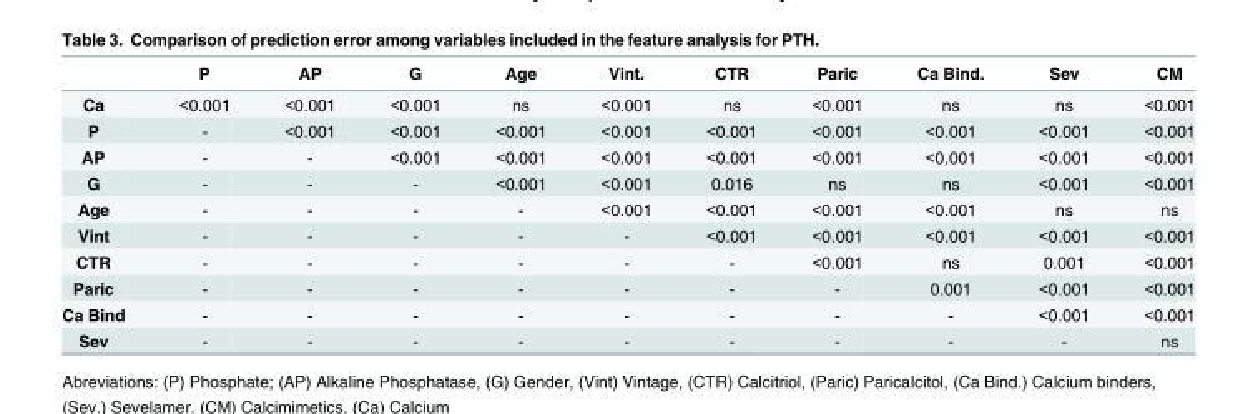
<table><thead><tr><td></td><td>P</td><td>AP</td><td>G</td><td>Age</td><td>Vint.</td><td>CTR</td><td>Paric</td><td>Ca Bind.</td><td>Sev</td><td>CM</td></tr></thead><tbody><tr><td>Ca</td><td>&lt;0.001</td><td>&lt;0.001</td><td>&lt;0.001</td><td>ns</td><td>&lt;0.001</td><td>ns</td><td>&lt;0.001</td><td>ns</td><td>ns</td><td>&lt;0.001</td></tr><tr><td>P</td><td>-</td><td>&lt;0.001</td><td>&lt;0.001</td><td>&lt;0.001</td><td>&lt;0.001</td><td>&lt;0.001</td><td>&lt;0.001</td><td>&lt;0.001</td><td>&lt;0.001</td><td>&lt;0.001</td></tr><tr><td>AP</td><td>-</td><td>-</td><td>&lt;0.001</td><td>&lt;0.001</td><td>&lt;0.001</td><td>&lt;0.001</td><td>&lt;0.001</td><td>&lt;0.001</td><td>&lt;0.001</td><td>&lt;0.001</td></tr><tr><td>G</td><td>-</td><td>-</td><td>-</td><td>&lt;0.001</td><td>&lt;0.001</td><td>0.016</td><td>ns</td><td>ns</td><td>&lt;0.001</td><td>&lt;0.001</td></tr><tr><td>Age</td><td>-</td><td>-</td><td>-</td><td>-</td><td>&lt;0.001</td><td>&lt;0.001</td><td>&lt;0.001</td><td>&lt;0.001</td><td>ns</td><td>ns</td></tr><tr><td>Vint</td><td>-</td><td>-</td><td>-</td><td>-</td><td>-</td><td>&lt;0.001</td><td>&lt;0.001</td><td>&lt;0.001</td><td>&lt;0.001</td><td>&lt;0.001</td></tr><tr><td>CTR</td><td>-</td><td>-</td><td>-</td><td>-</td><td>-</td><td>-</td><td>&lt;0.001</td><td>ns</td><td>0.001</td><td>&lt;0.001</td></tr><tr><td>Paric</td><td>-</td><td>-</td><td>-</td><td>-</td><td>-</td><td>-</td><td>-</td><td>0.001</td><td>&lt;0.001</td><td>&lt;0.001</td></tr><tr><td>Ca Bind</td><td>-</td><td>-</td><td>-</td><td>-</td><td>-</td><td>-</td><td>-</td><td>-</td><td>&lt;0.001</td><td>&lt;0.001</td></tr><tr><td>Sev</td><td>-</td><td>-</td><td>-</td><td>-</td><td>-</td><td>-</td><td>-</td><td>-</td><td>-</td><td>ns</td></tr></tbody></table>